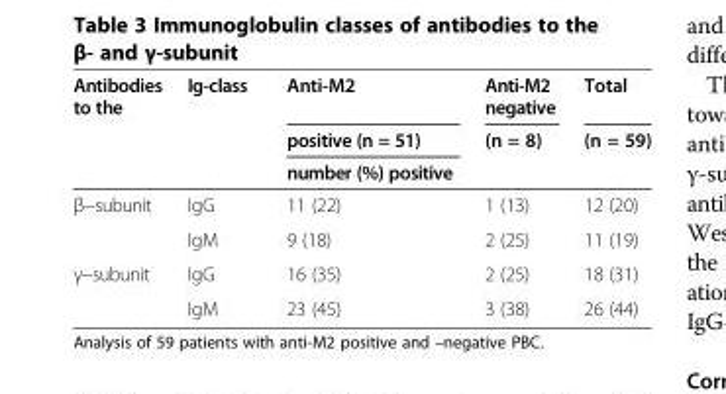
<table><thead><tr><td rowspan="3">Antibodies to the</td><td rowspan="3">Ig-class</td><td rowspan="2">Anti-M2 positive (n = 51)</td><td rowspan="2">Anti-M2 negative (n = 8)</td><td rowspan="2">Total (n = 59)</td></tr><tr></tr><tr><td colspan="3">number (%) positive</td></tr></thead><tbody><tr><td rowspan="2">β−subunit</td><td>IgG</td><td>11 (22)</td><td>1 (13)</td><td>12 (20)</td></tr><tr><td>IgM</td><td>9 (18)</td><td>2 (25)</td><td>11 (19)</td></tr><tr><td rowspan="2">γ−subunit</td><td>IgG</td><td>16 (35)</td><td>2 (25)</td><td>18 (31)</td></tr><tr><td>IgM</td><td>23 (45)</td><td>3 (38)</td><td>26 (44)</td></tr></tbody></table>